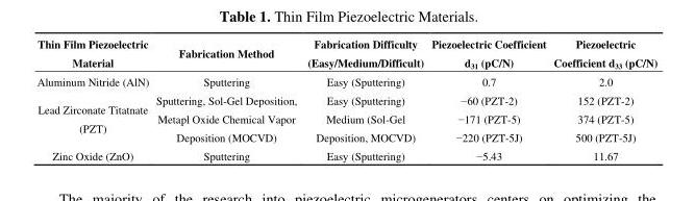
<table><thead><tr><td>Thin Film Piezoelectric Material</td><td>Fabrication Method</td><td>Fabrication Difficulty (Easy/Medium/Difficult)</td><td>Piezoelectric Coefficient d<sub>31</sub> (pC/N)</td><td>Piezoelectric Coefficient d<sub>33</sub> (pC/N)</td></tr></thead><tbody><tr><td>Aluminum Nitride (AlN)</td><td>Sputtering</td><td>Easy (Sputtering)</td><td>0.7</td><td>2.0</td></tr><tr><td>Lead Zirconate Titatnate (PZT)</td><td>Sputtering, Sol-Gel Deposition, Metapl Oxide Chemical Vapor Deposition (MOCVD)</td><td>Easy (Sputtering) Medium (Sol-Gel Deposition, MOCVD)</td><td>−60 (PZT-2) −171 (PZT-5) −220 (PZT-5J)</td><td>152 (PZT-2) 374 (PZT-5) 500 (PZT-5J)</td></tr><tr><td>Zinc Oxide (ZnO)</td><td>Sputtering</td><td>Easy (Sputtering)</td><td>−5.43</td><td>11.67</td></tr></tbody></table>